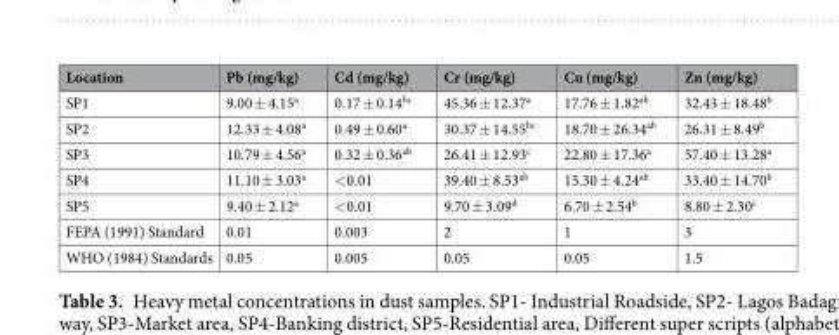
<table><thead><tr><td>Location</td><td>Pb (mg/kg)</td><td>Cd (mg/kg)</td><td>Cr (mg/kg)</td><td>Cu (mg/kg)</td><td>Zn (mg/kg)</td></tr></thead><tbody><tr><td>SP1</td><td>9.00 ± 4.15<sup>a</sup></td><td>0.17 ± 0.14<sup>bc</sup></td><td>45.36 ± 12.37<sup>a</sup></td><td>17.76 ± 1.82<sup>ab</sup></td><td>32.43 ± 18.48<sup>b</sup></td></tr><tr><td>SP2</td><td>12.33 ± 4.08<sup>a</sup></td><td>0.49 ± 0.60<sup>a</sup></td><td>30.37 ± 14.55<sup>bc</sup></td><td>18.70 ± 26.34<sup>ab</sup></td><td>26.31 ± 8.49<sup>b</sup></td></tr><tr><td>SP3</td><td>10.79 ± 4.56<sup>a</sup></td><td>0.32 ± 0.36<sup>ab</sup></td><td>26.41 ± 12.93<sup>c</sup></td><td>22.80 ± 17.36<sup>a</sup></td><td>57.40 ± 13.28<sup>a</sup></td></tr><tr><td>SP4</td><td>11.10 ± 3.03<sup>a</sup></td><td>&lt;0.01</td><td>39.40 ± 8.53<sup>ab</sup></td><td>15.30 ± 4.24<sup>ab</sup></td><td>33.40 ± 14.70<sup>b</sup></td></tr><tr><td>SP5</td><td>9.40 ± 2.12<sup>a</sup></td><td>&lt;0.01</td><td>9.70 ± 3.09<sup>d</sup></td><td>6.70 ± 2.54<sup>b</sup></td><td>8.80 ± 2.30<sup>c</sup></td></tr><tr><td>FEPA (1991) Standard</td><td>0.01</td><td>0.003</td><td>2</td><td>1</td><td>3</td></tr><tr><td>WHO (1984) Standards</td><td>0.05</td><td>0.005</td><td>0.05</td><td>0.05</td><td>1.5</td></tr></tbody></table>